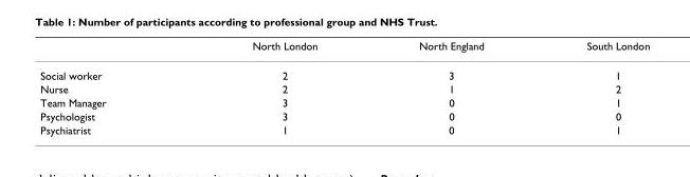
<table><thead><tr><td></td><td>North London</td><td>North England</td><td>South London</td></tr></thead><tbody><tr><td>Social worker</td><td>2</td><td>3</td><td>1</td></tr><tr><td>Nurse</td><td>2</td><td>1</td><td>2</td></tr><tr><td>Team Manager</td><td>3</td><td>0</td><td>1</td></tr><tr><td>Psychologist</td><td>3</td><td>0</td><td>0</td></tr><tr><td>Psychiatrist</td><td>1</td><td>0</td><td>1</td></tr></tbody></table>